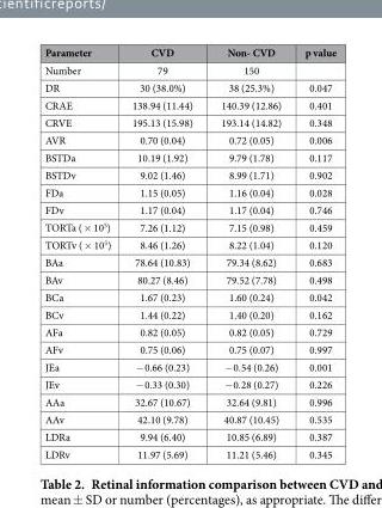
<table><thead><tr><td>Parameter</td><td>CVD</td><td>Non- CVD</td><td>p value</td></tr></thead><tbody><tr><td>Number</td><td>79</td><td>150</td><td></td></tr><tr><td>DR</td><td>30 (38.0%)</td><td>38 (25.3%)</td><td>0.047</td></tr><tr><td>CRAE</td><td>138.94 (11.44)</td><td>140.39 (12.86)</td><td>0.401</td></tr><tr><td>CRVE</td><td>195.13 (15.98)</td><td>193.14 (14.82)</td><td>0.348</td></tr><tr><td>AVR</td><td>0.70 (0.04)</td><td>0.72 (0.05)</td><td>0.006</td></tr><tr><td>BSTDa</td><td>10.19 (1.92)</td><td>9.79 (1.78)</td><td>0.117</td></tr><tr><td>BSTDv</td><td>9.02 (1.46)</td><td>8.99 (1.71)</td><td>0.902</td></tr><tr><td>FDa</td><td>1.15 (0.05)</td><td>1.16 (0.04)</td><td>0.028</td></tr><tr><td>FDv</td><td>1.17 (0.04)</td><td>1.17 (0.04)</td><td>0.746</td></tr><tr><td>TORTa ( × 10<sup>5</sup>)</td><td>7.26 (1.12)</td><td>7.15 (0.98)</td><td>0.459</td></tr><tr><td>TORTv ( × 10<sup>5</sup>)</td><td>8.46 (1.26)</td><td>8.22 (1.04)</td><td>0.120</td></tr><tr><td>BAa</td><td>78.64 (10.83)</td><td>79.34 (8.62)</td><td>0.683</td></tr><tr><td>BAv</td><td>80.27 (8.46)</td><td>79.52 (7.78)</td><td>0.498</td></tr><tr><td>BCa</td><td>1.67 (0.23)</td><td>1.60 (0.24)</td><td>0.042</td></tr><tr><td>BCv</td><td>1.44 (0.22)</td><td>1.40 (0.20)</td><td>0.162</td></tr><tr><td>AFa</td><td>0.82 (0.05)</td><td>0.82 (0.05)</td><td>0.729</td></tr><tr><td>AFv</td><td>0.75 (0.06)</td><td>0.75 (0.07)</td><td>0.997</td></tr><tr><td>JEa</td><td>− 0.66 (0.23)</td><td>− 0.54 (0.26)</td><td>0.001</td></tr><tr><td>JEv</td><td>− 0.33 (0.30)</td><td>− 0.28 (0.27)</td><td>0.226</td></tr><tr><td>AAa</td><td>32.67 (10.67)</td><td>32.64 (9.81)</td><td>0.996</td></tr><tr><td>AAv</td><td>42.10 (9.78)</td><td>40.87 (10.45)</td><td>0.535</td></tr><tr><td>LDRa</td><td>9.94 (6.40)</td><td>10.85 (6.89)</td><td>0.387</td></tr><tr><td>LDRv</td><td>11.97 (5.69)</td><td>11.21 (5.46)</td><td>0.345</td></tr></tbody></table>